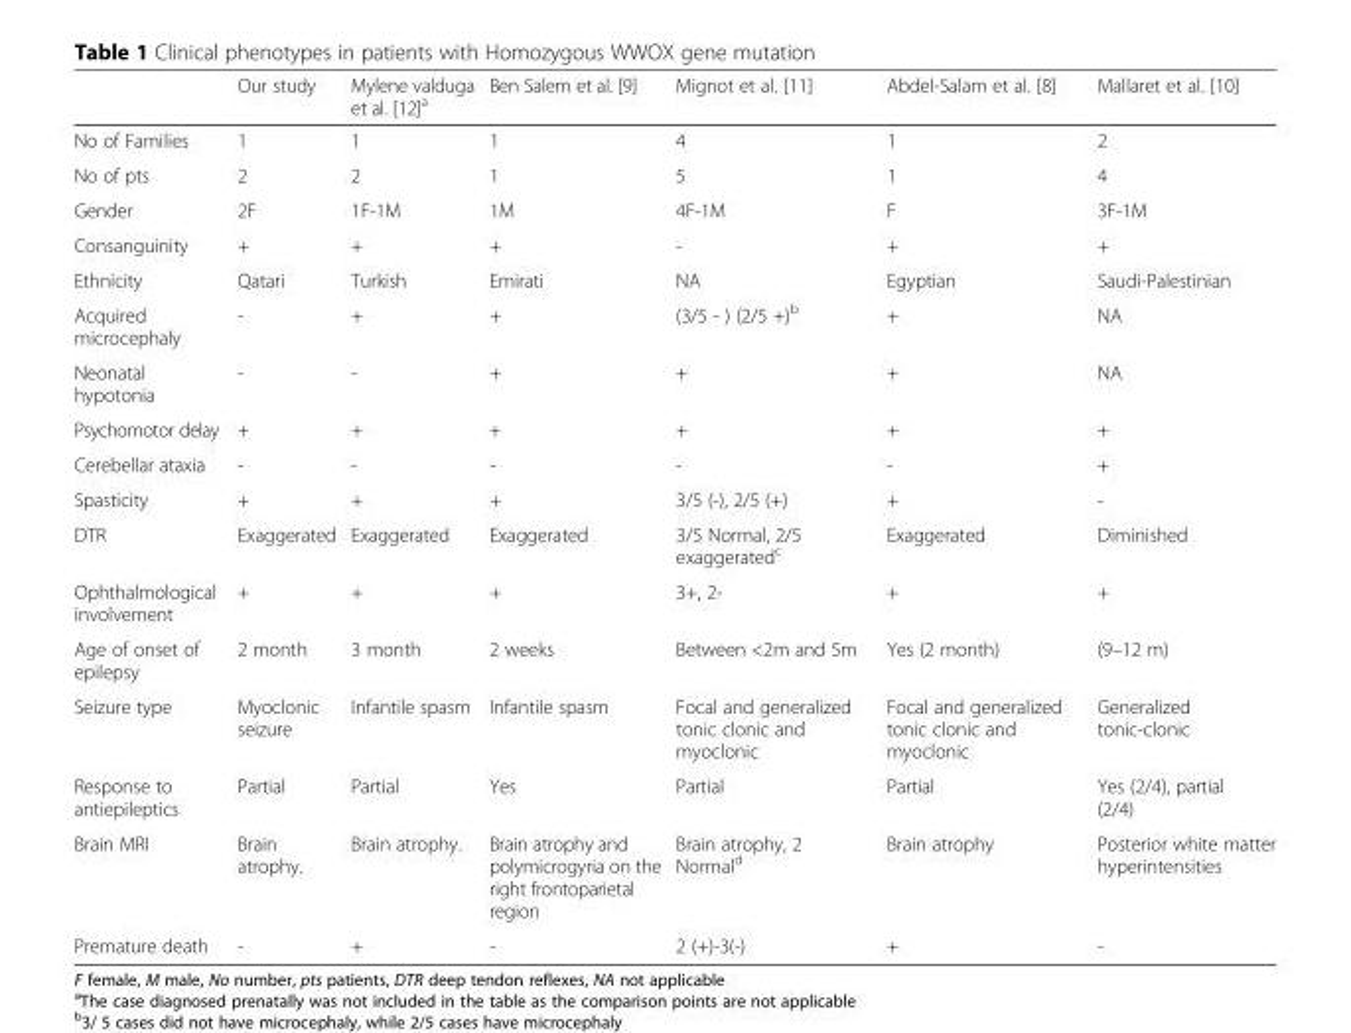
<table><thead><tr><td></td><td>Our study</td><td>Mylene valduga et al. [12]<sup>a</sup></td><td>Ben Salem et al. [9]</td><td>Mignot et al. [11]</td><td>Abdel-Salam et al. [8]</td><td>Mallaret et al. [10]</td></tr></thead><tbody><tr><td>No of Families</td><td>1</td><td>1</td><td>1</td><td>4</td><td>1</td><td>2</td></tr><tr><td>No of pts</td><td>2</td><td>2</td><td>1</td><td>5</td><td>1</td><td>4</td></tr><tr><td>Gender</td><td>2F</td><td>1F-1M</td><td>1M</td><td>4F-1M</td><td>F</td><td>3F-1M</td></tr><tr><td>Consanguinity</td><td>+</td><td>+</td><td>+</td><td>-</td><td>+</td><td>+</td></tr><tr><td>Ethnicity</td><td>Qatari</td><td>Turkish</td><td>Emirati</td><td>NA</td><td>Egyptian</td><td>Saudi-Palestinian</td></tr><tr><td>Acquired microcephaly</td><td>-</td><td>+</td><td>+</td><td>(3/5 - ) (2/5 +)<sup>b</sup></td><td>+</td><td>NA</td></tr><tr><td>Neonatal hypotonia</td><td>-</td><td>-</td><td>+</td><td>+</td><td>+</td><td>NA</td></tr><tr><td>Psychomotor delay</td><td>+</td><td>+</td><td>+</td><td>+</td><td>+</td><td>+</td></tr><tr><td>Cerebellar ataxia</td><td>-</td><td>-</td><td>-</td><td>-</td><td>-</td><td>+</td></tr><tr><td>Spasticity</td><td>+</td><td>+</td><td>+</td><td>3/5 (-), 2/5 (+)</td><td>+</td><td>-</td></tr><tr><td>DTR</td><td>Exaggerated</td><td>Exaggerated</td><td>Exaggerated</td><td>3/5 Normal, 2/5 exaggerated<sup>c</sup></td><td>Exaggerated</td><td>Diminished</td></tr><tr><td>Ophthalmological involvement</td><td>+</td><td>+</td><td>+</td><td>3+, 2-</td><td>+</td><td>+</td></tr><tr><td>Age of onset of epilepsy</td><td>2 month</td><td>3 month</td><td>2 weeks</td><td>Between &lt;2m and 5m</td><td>Yes (2 month)</td><td>(9–12 m)</td></tr><tr><td>Seizure type</td><td>Myoclonic seizure</td><td>Infantile spasm</td><td>Infantile spasm</td><td>Focal and generalized tonic clonic and myoclonic</td><td>Focal and generalized tonic clonic and myoclonic</td><td>Generalized tonic-clonic</td></tr><tr><td>Response to antiepileptics</td><td>Partial</td><td>Partial</td><td>Yes</td><td>Partial</td><td>Partial</td><td>Yes (2/4), partial (2/4)</td></tr><tr><td>Brain MRI</td><td>Brain atrophy.</td><td>Brain atrophy.</td><td>Brain atrophy and polymicrogyria on the right frontoparietal region</td><td>Brain atrophy, 2 Normal<sup>d</sup></td><td>Brain atrophy</td><td>Posterior white matter hyperintensities</td></tr><tr><td>Premature death</td><td>-</td><td>+</td><td>-</td><td>2 (+)-3(-)</td><td>+</td><td>-</td></tr></tbody></table>